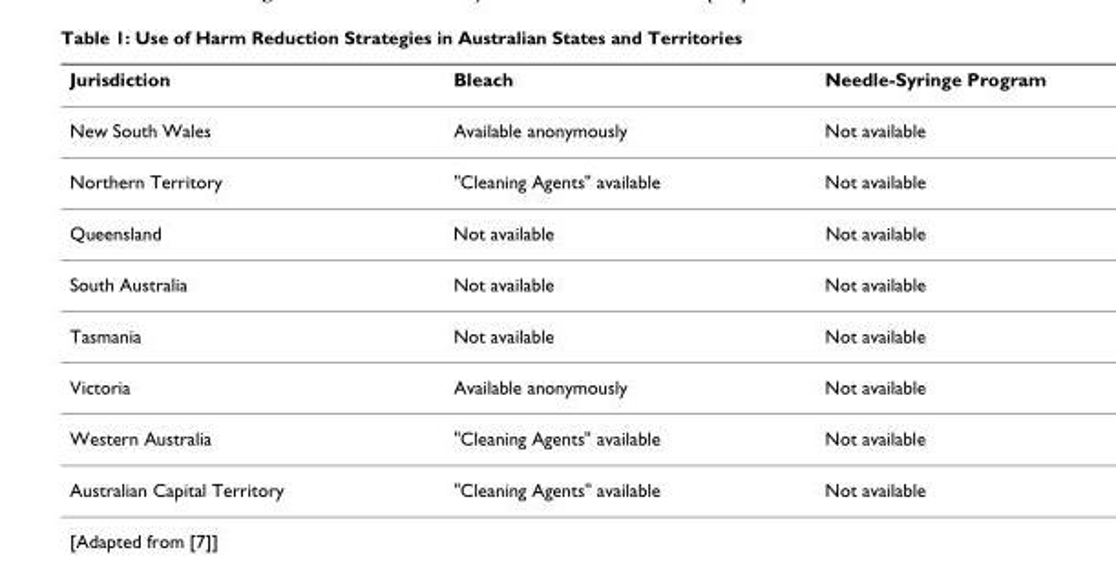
<table><thead><tr><td>Jurisdiction</td><td>Bleach</td><td>Needle-Syringe Program</td></tr></thead><tbody><tr><td>New South Wales</td><td>Available anonymously</td><td>Not available</td></tr><tr><td>Northern Territory</td><td>&quot;Cleaning Agents&quot; available</td><td>Not available</td></tr><tr><td>Queensland</td><td>Not available</td><td>Not available</td></tr><tr><td>South Australia</td><td>Not available</td><td>Not available</td></tr><tr><td>Tasmania</td><td>Not available</td><td>Not available</td></tr><tr><td>Victoria</td><td>Available anonymously</td><td>Not available</td></tr><tr><td>Western Australia</td><td>&quot;Cleaning Agents&quot; available</td><td>Not available</td></tr><tr><td>Australian Capital Territory</td><td>&quot;Cleaning Agents&quot; available</td><td>Not available</td></tr></tbody></table>